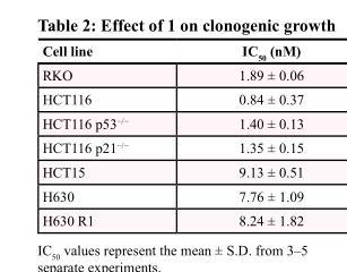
<table><thead><tr><td>Cell line</td><td>IC<sub>50</sub> (nM)</td></tr></thead><tbody><tr><td>RKO</td><td>1.89 ± 0.06</td></tr><tr><td>HCT116</td><td>0.84 ± 0.37</td></tr><tr><td>HCT116 p53<sup>−/−</sup></td><td>1.40 ± 0.13</td></tr><tr><td>HCT116 p21<sup>−/−</sup></td><td>1.35 ± 0.15</td></tr><tr><td>HCT15</td><td>9.13 ± 0.51</td></tr><tr><td>H630</td><td>7.76 ± 1.09</td></tr><tr><td>H630 R1</td><td>8.24 ± 1.82</td></tr></tbody></table>